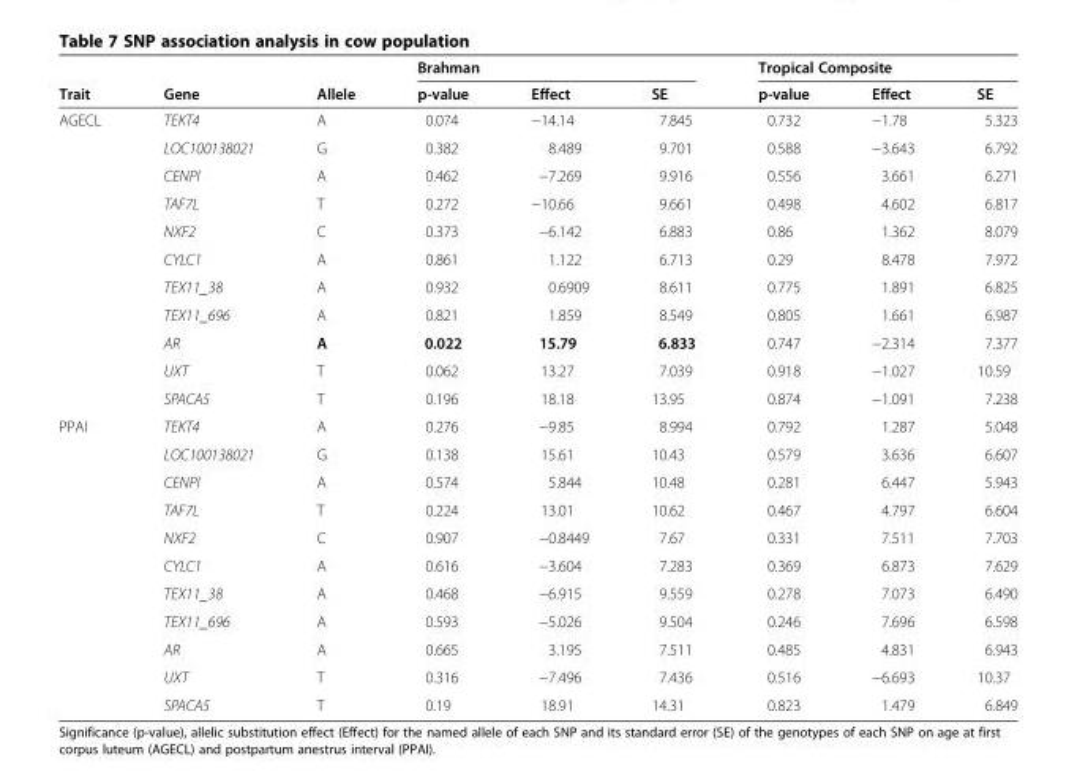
<table><thead><tr><td rowspan="2">Trait</td><td rowspan="2">Gene</td><td rowspan="2">Allele</td><td colspan="3">Brahman</td><td colspan="3">Tropical Composite</td></tr><tr><td>p-value</td><td>Effect</td><td>SE</td><td>p-value</td><td>Effect</td><td>SE</td></tr></thead><tbody><tr><td rowspan="11">AGECL</td><td>TEKT4</td><td>A</td><td>0.074</td><td>−14.14</td><td>7.845</td><td>0.732</td><td>−1.78</td><td>5.323</td></tr><tr><td>LOC100138021</td><td>G</td><td>0.382</td><td>8.489</td><td>9.701</td><td>0.588</td><td>−3.643</td><td>6.792</td></tr><tr><td>CENPI</td><td>A</td><td>0.462</td><td>−7.269</td><td>9.916</td><td>0.556</td><td>3.661</td><td>6.271</td></tr><tr><td>TAF7L</td><td>T</td><td>0.272</td><td>−10.66</td><td>9.661</td><td>0.498</td><td>4.602</td><td>6.817</td></tr><tr><td>NXF2</td><td>C</td><td>0.373</td><td>−6.142</td><td>6.883</td><td>0.86</td><td>1.362</td><td>8.079</td></tr><tr><td>CYLC1</td><td>A</td><td>0.861</td><td>1.122</td><td>6.713</td><td>0.29</td><td>8.478</td><td>7.972</td></tr><tr><td>TEX11_38</td><td>A</td><td>0.932</td><td>0.6909</td><td>8.611</td><td>0.775</td><td>1.891</td><td>6.825</td></tr><tr><td>TEX11_696</td><td>A</td><td>0.821</td><td>1.859</td><td>8.549</td><td>0.805</td><td>1.661</td><td>6.987</td></tr><tr><td>AR</td><td>A</td><td>0.022</td><td>15.79</td><td>6.833</td><td>0.747</td><td>−2.314</td><td>7.377</td></tr><tr><td>UXT</td><td>T</td><td>0.062</td><td>13.27</td><td>7.039</td><td>0.918</td><td>−1.027</td><td>10.59</td></tr><tr><td>SPACA5</td><td>T</td><td>0.196</td><td>18.18</td><td>13.95</td><td>0.874</td><td>−1.091</td><td>7.238</td></tr><tr><td rowspan="11">PPAI</td><td>TEKT4</td><td>A</td><td>0.276</td><td>−9.85</td><td>8.994</td><td>0.792</td><td>1.287</td><td>5.048</td></tr><tr><td>LOC100138021</td><td>G</td><td>0.138</td><td>15.61</td><td>10.43</td><td>0.579</td><td>3.636</td><td>6.607</td></tr><tr><td>CENPI</td><td>A</td><td>0.574</td><td>5.844</td><td>10.48</td><td>0.281</td><td>6.447</td><td>5.943</td></tr><tr><td>TAF7L</td><td>T</td><td>0.224</td><td>13.01</td><td>10.62</td><td>0.467</td><td>4.797</td><td>6.604</td></tr><tr><td>NXF2</td><td>C</td><td>0.907</td><td>−0.8449</td><td>7.67</td><td>0.331</td><td>7.511</td><td>7.703</td></tr><tr><td>CYLC1</td><td>A</td><td>0.616</td><td>−3.604</td><td>7.283</td><td>0.369</td><td>6.873</td><td>7.629</td></tr><tr><td>TEX11_38</td><td>A</td><td>0.468</td><td>−6.915</td><td>9.559</td><td>0.278</td><td>7.073</td><td>6.490</td></tr><tr><td>TEX11_696</td><td>A</td><td>0.593</td><td>−5.026</td><td>9.504</td><td>0.246</td><td>7.696</td><td>6.598</td></tr><tr><td>AR</td><td>A</td><td>0.665</td><td>3.195</td><td>7.511</td><td>0.485</td><td>4.831</td><td>6.943</td></tr><tr><td>UXT</td><td>T</td><td>0.316</td><td>−7.496</td><td>7.436</td><td>0.516</td><td>−6.693</td><td>10.37</td></tr><tr><td>SPACA5</td><td>T</td><td>0.19</td><td>18.91</td><td>14.31</td><td>0.823</td><td>1.479</td><td>6.849</td></tr></tbody></table>